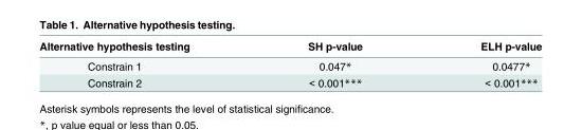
<table><thead><tr><td>Alternative hypothesis testing</td><td>SH p-value</td><td>ELH p-value</td></tr></thead><tbody><tr><td>Constrain 1</td><td>0.047*</td><td>0.0477*</td></tr><tr><td>Constrain 2</td><td>&lt; 0.001***</td><td>&lt; 0.001***</td></tr></tbody></table>